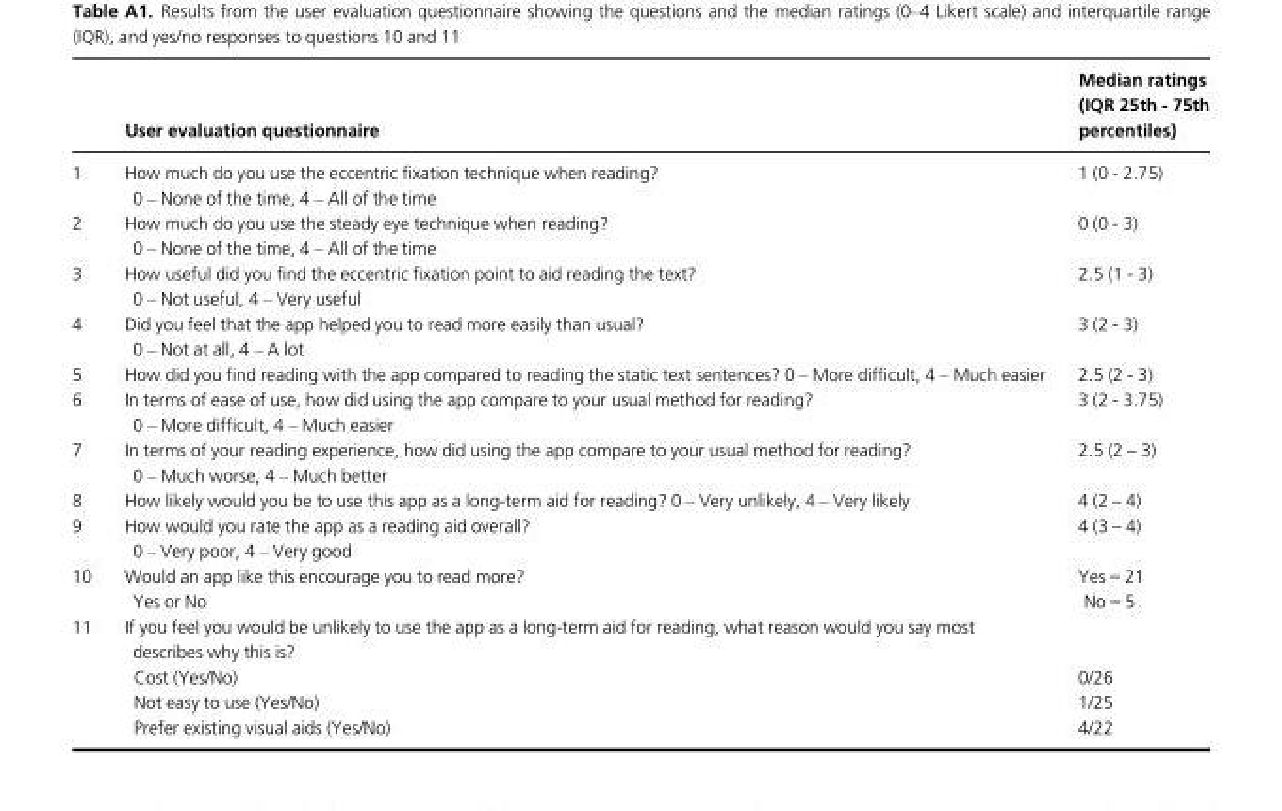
<table><thead><tr><td></td><td>User evaluation questionnaire</td><td>Median ratings (IQR 25th - 75th percentiles)</td></tr></thead><tbody><tr><td>1</td><td>How much do you use the eccentric fixation technique when reading? 0 – None of the time, 4 – All of the time</td><td>1 (0 - 2.75)</td></tr><tr><td>2</td><td>How much do you use the steady eye technique when reading? 0 – None of the time, 4 – All of the time</td><td>0 (0 - 3)</td></tr><tr><td>3</td><td>How useful did you find the eccentric fixation point to aid reading the text? 0 – Not useful, 4 – Very useful</td><td>2.5 (1 - 3)</td></tr><tr><td>4</td><td>Did you feel that the app helped you to read more easily than usual? 0 – Not at all, 4 – A lot</td><td>3 (2 - 3)</td></tr><tr><td>5</td><td>How did you find reading with the app compared to reading the static text sentences? 0 – More difficult, 4 – Much easier</td><td>2.5 (2 - 3)</td></tr><tr><td>6</td><td>In terms of ease of use, how did using the app compare to your usual method for reading? 0 – More difficult, 4 – Much easier</td><td>3 (2 - 3.75)</td></tr><tr><td>7</td><td>In terms of your reading experience, how did using the app compare to your usual method for reading? 0 – Much worse, 4 – Much better</td><td>2.5 (2 – 3)</td></tr><tr><td>8</td><td>How likely would you be to use this app as a long-term aid for reading? 0 – Very unlikely, 4 – Very likely</td><td>4 (2 – 4)</td></tr><tr><td>9</td><td>How would you rate the app as a reading aid overall? 0 – Very poor, 4 – Very good</td><td>4 (3 – 4)</td></tr><tr><td>10</td><td>Would an app like this encourage you to read more? Yes or No</td><td>Yes = 21 No = 5</td></tr><tr><td rowspan="2">11</td><td colspan="2">If you feel you would be unlikely to use the app as a long-term aid for reading, what reason would you say most describes why this is?</td></tr><tr><td>Cost (Yes/No) Not easy to use (Yes/No) Prefer existing visual aids (Yes/No)</td><td>0/26 1/25 4/22</td></tr></tbody></table>